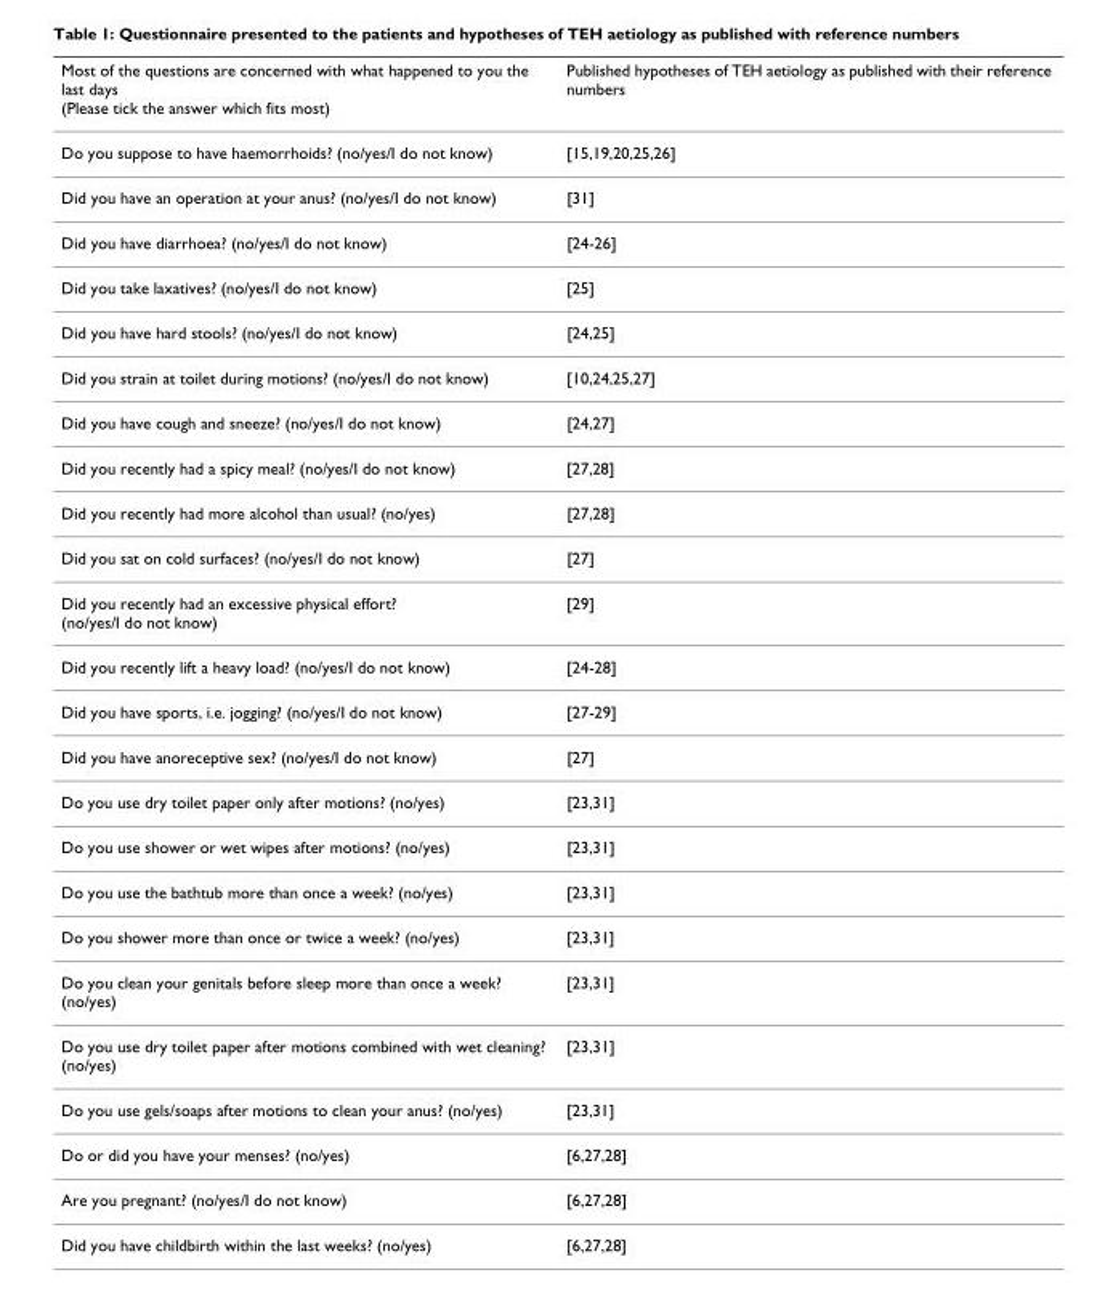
<table><thead><tr><td>Most of the questions are concerned with what happened to you the last days (Please tick the answer which fits most)</td><td>Published hypotheses of TEH aetiology as published with their reference numbers</td></tr></thead><tbody><tr><td>Do you suppose to have haemorrhoids? (no/yes/I do not know)</td><td>[15,19,20,25,26]</td></tr><tr><td>Did you have an operation at your anus? (no/yes/I do not know)</td><td>[31]</td></tr><tr><td>Did you have diarrhoea? (no/yes/I do not know)</td><td>[24-26]</td></tr><tr><td>Did you take laxatives? (no/yes/I do not know)</td><td>[25]</td></tr><tr><td>Did you have hard stools? (no/yes/I do not know)</td><td>[24,25]</td></tr><tr><td>Did you strain at toilet during motions? (no/yes/I do not know)</td><td>[10,24,25,27]</td></tr><tr><td>Did you have cough and sneeze? (no/yes/I do not know)</td><td>[24,27]</td></tr><tr><td>Did you recently had a spicy meal? (no/yes/I do not know)</td><td>[27,28]</td></tr><tr><td>Did you recently had more alcohol than usual? (no/yes)</td><td>[27,28]</td></tr><tr><td>Did you sat on cold surfaces? (no/yes/I do not know)</td><td>[27]</td></tr><tr><td>Did you recently had an excessive physical effort? (no/yes/I do not know)</td><td>[29]</td></tr><tr><td>Did you recently lift a heavy load? (no/yes/I do not know)</td><td>[24-28]</td></tr><tr><td>Did you have sports, i.e. jogging? (no/yes/I do not know)</td><td>[27-29]</td></tr><tr><td>Did you have anoreceptive sex? (no/yes/I do not know)</td><td>[27]</td></tr><tr><td>Do you use dry toilet paper only after motions? (no/yes)</td><td>[23,31]</td></tr><tr><td>Do you use shower or wet wipes after motions? (no/yes)</td><td>[23,31]</td></tr><tr><td>Do you use the bathtub more than once a week? (no/yes)</td><td>[23,31]</td></tr><tr><td>Do you shower more than once or twice a week? (no/yes)</td><td>[23,31]</td></tr><tr><td>Do you clean your genitals before sleep more than once a week? (no/yes)</td><td>[23,31]</td></tr><tr><td>Do you use dry toilet paper after motions combined with wet cleaning? (no/yes)</td><td>[23,31]</td></tr><tr><td>Do you use gels/soaps after motions to clean your anus? (no/yes)</td><td>[23,31]</td></tr><tr><td>Do or did you have your menses? (no/yes)</td><td>[6,27,28]</td></tr><tr><td>Are you pregnant? (no/yes/I do not know)</td><td>[6,27,28]</td></tr><tr><td>Did you have childbirth within the last weeks? (no/yes)</td><td>[6,27,28]</td></tr></tbody></table>